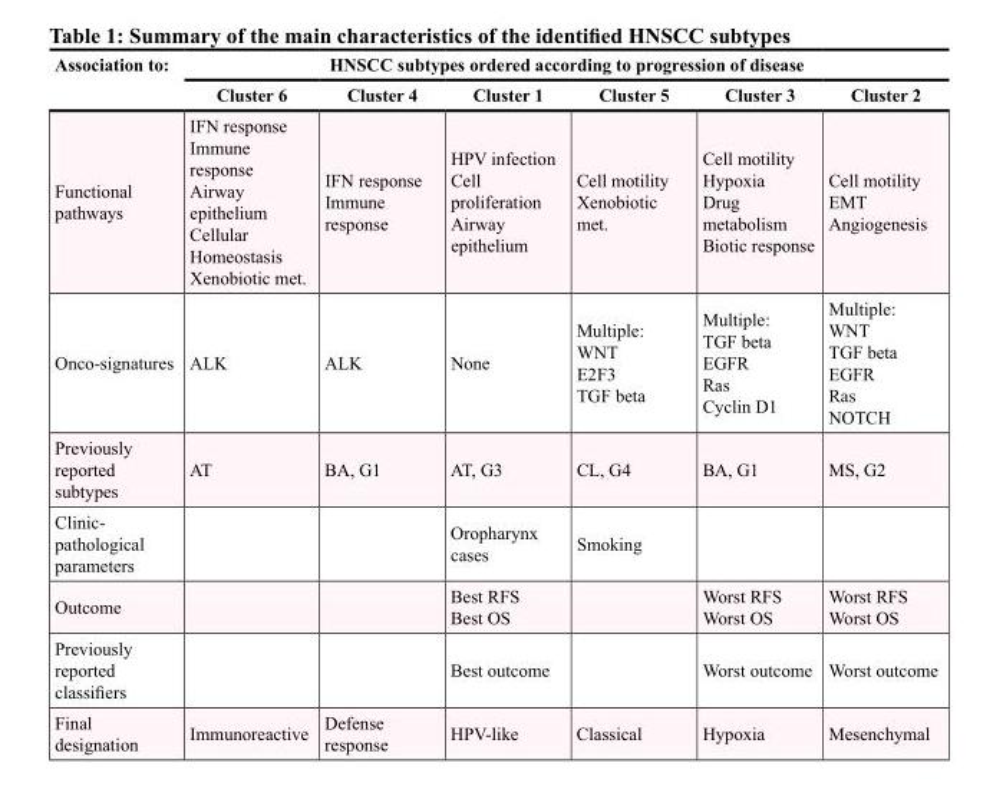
<table><thead><tr><td rowspan="2">Association to:</td><td colspan="6">HNSCC subtypes ordered according to progression of disease</td></tr><tr><td>Cluster 6</td><td>Cluster 4</td><td>Cluster 1</td><td>Cluster 5</td><td>Cluster 3</td><td>Cluster 2</td></tr></thead><tbody><tr><td>Functional pathways</td><td>IFN response Immune response Airway epithelium Cellular Homeostasis Xenobiotic met.</td><td>IFN response Immune response</td><td>HPV infection Cell proliferation Airway epithelium</td><td>Cell motility Xenobiotic met.</td><td>Cell motility Hypoxia Drug metabolism Biotic response</td><td>Cell motility EMT Angiogenesis</td></tr><tr><td>Onco-signatures</td><td>ALK</td><td>ALK</td><td>None</td><td>Multiple: WNT E2F3 TGF beta</td><td>Multiple: TGF beta EGFR Ras Cyclin D1</td><td>Multiple: WNT TGF beta EGFR Ras NOTCH</td></tr><tr><td>Previously reported subtypes</td><td>AT</td><td>BA, G1</td><td>AT, G3</td><td>CL, G4</td><td>BA, G1</td><td>MS, G2</td></tr><tr><td>Clinic- pathological parameters</td><td></td><td></td><td>Oropharynx cases</td><td>Smoking</td><td></td><td></td></tr><tr><td>Outcome</td><td></td><td></td><td>Best RFS Best OS</td><td></td><td>Worst RFS Worst OS</td><td>Worst RFS Worst OS</td></tr><tr><td>Previously reported classifiers</td><td></td><td></td><td>Best outcome</td><td></td><td>Worst outcome</td><td>Worst outcome</td></tr><tr><td>Final designation</td><td>Immunoreactive</td><td>Defense response</td><td>HPV-like</td><td>Classical</td><td>Hypoxia</td><td>Mesenchymal</td></tr></tbody></table>